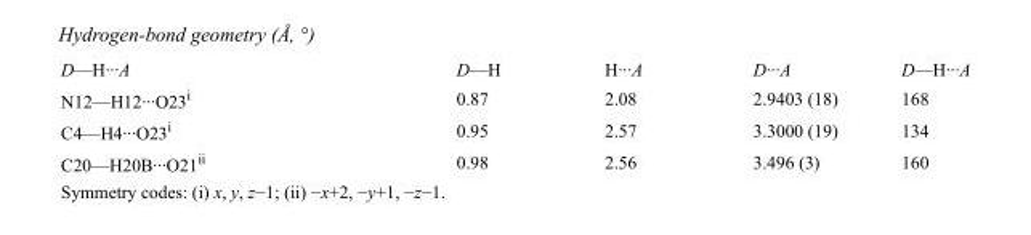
<table><tbody><tr><td>D—H···A</td><td>D—H</td><td>H···A</td><td>D···A</td><td>D—H···A</td></tr><tr><td>N12—H12···O23<sup>i</sup></td><td>0.87</td><td>2.08</td><td>2.9403 (18)</td><td>168</td></tr><tr><td>C4—H4···O23<sup>i</sup></td><td>0.95</td><td>2.57</td><td>3.3000 (19)</td><td>134</td></tr><tr><td>C20—H20B···O21<sup>ii</sup></td><td>0.98</td><td>2.56</td><td>3.496 (3)</td><td>160</td></tr></tbody></table>